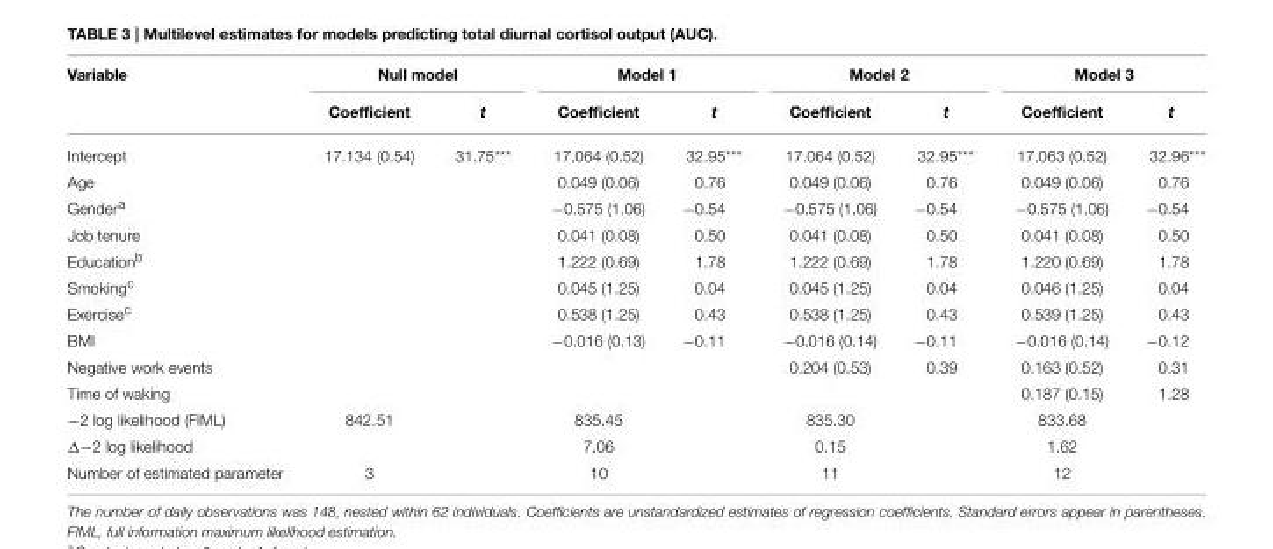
<table><thead><tr><td rowspan="2">Variable</td><td colspan="2">Null model</td><td colspan="2">Model 1</td><td colspan="2">Model 2</td><td colspan="2">Model 3</td></tr><tr><td>Coefficient</td><td>t</td><td>Coefficient</td><td>t</td><td>Coefficient</td><td>t</td><td>Coefficient</td><td>t</td></tr></thead><tbody><tr><td>Intercept</td><td>17.134 (0.54)</td><td>31.75***</td><td>17.064 (0.52)</td><td>32.95***</td><td>17.064 (0.52)</td><td>32.95***</td><td>17.063 (0.52)</td><td>32.96***</td></tr><tr><td>Age</td><td></td><td></td><td>0.049 (0.06)</td><td>0.76</td><td>0.049 (0.06)</td><td>0.76</td><td>0.049 (0.06)</td><td>0.76</td></tr><tr><td>Gender<sup>a</sup></td><td></td><td></td><td>−0.575 (1.06)</td><td>−0.54</td><td>−0.575 (1.06)</td><td>−0.54</td><td>−0.575 (1.06)</td><td>−0.54</td></tr><tr><td>Job tenure</td><td></td><td></td><td>0.041 (0.08)</td><td>0.50</td><td>0.041 (0.08)</td><td>0.50</td><td>0.041 (0.08)</td><td>0.50</td></tr><tr><td>Education<sup>b</sup></td><td></td><td></td><td>1.222 (0.69)</td><td>1.78</td><td>1.222 (0.69)</td><td>1.78</td><td>1.220 (0.69)</td><td>1.78</td></tr><tr><td>Smoking<sup>c</sup></td><td></td><td></td><td>0.045 (1.25)</td><td>0.04</td><td>0.045 (1.25)</td><td>0.04</td><td>0.046 (1.25)</td><td>0.04</td></tr><tr><td>Exercise<sup>c</sup></td><td></td><td></td><td>0.538 (1.25)</td><td>0.43</td><td>0.538 (1.25)</td><td>0.43</td><td>0.539 (1.25)</td><td>0.43</td></tr><tr><td>BMI</td><td></td><td></td><td>−0.016 (0.13)</td><td>−0.11</td><td>−0.016 (0.14)</td><td>−0.11</td><td>−0.016 (0.14)</td><td>−0.12</td></tr><tr><td>Negative work events</td><td></td><td></td><td></td><td></td><td>0.204 (0.53)</td><td>0.39</td><td>0.163 (0.52)</td><td>0.31</td></tr><tr><td>Time of waking</td><td></td><td></td><td></td><td></td><td></td><td></td><td>0.187 (0.15)</td><td>1.28</td></tr><tr><td>−2 log likelihood (FIML)</td><td>842.51</td><td></td><td>835.45</td><td></td><td>835.30</td><td></td><td>833.68</td><td></td></tr><tr><td>Δ−2 log likelihood</td><td></td><td></td><td>7.06</td><td></td><td>0.15</td><td></td><td>1.62</td><td></td></tr><tr><td>Number of estimated parameter</td><td>3</td><td></td><td>10</td><td></td><td>11</td><td></td><td>12</td><td></td></tr></tbody></table>